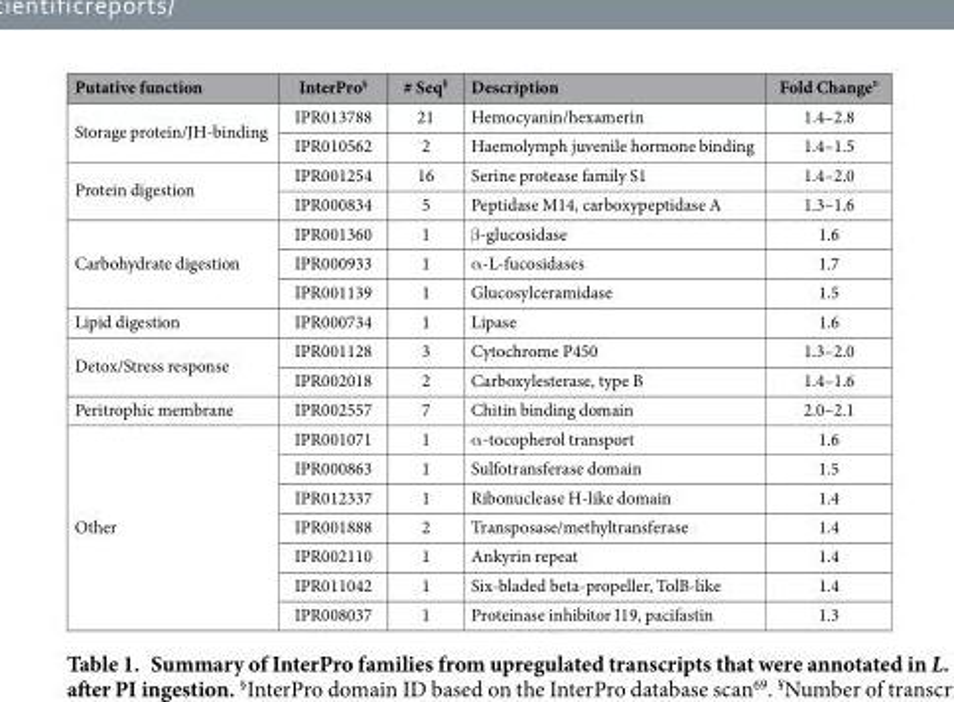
<table><thead><tr><td>Putative function</td><td>InterPro§</td><td># Seq¥</td><td>Description</td><td>Fold Change¤</td></tr></thead><tbody><tr><td rowspan="2">Storage protein/JH-binding</td><td>IPR013788</td><td>21</td><td>Hemocyanin/hexamerin</td><td>1.4–2.8</td></tr><tr><td>IPR010562</td><td>2</td><td>Haemolymph juvenile hormone binding</td><td>1.4–1.5</td></tr><tr><td rowspan="2">Protein digestion</td><td>IPR001254</td><td>16</td><td>Serine protease family S1</td><td>1.4–2.0</td></tr><tr><td>IPR000834</td><td>5</td><td>Peptidase M14, carboxypeptidase A</td><td>1.3–1.6</td></tr><tr><td rowspan="3">Carbohydrate digestion</td><td>IPR001360</td><td>1</td><td>β -glucosidase</td><td>1.6</td></tr><tr><td>IPR000933</td><td>1</td><td>α -L-fucosidases</td><td>1.7</td></tr><tr><td>IPR001139</td><td>1</td><td>Glucosylceramidase</td><td>1.5</td></tr><tr><td>Lipid digestion</td><td>IPR000734</td><td>1</td><td>Lipase</td><td>1.6</td></tr><tr><td rowspan="2">Detox/Stress response</td><td>IPR001128</td><td>3</td><td>Cytochrome P450</td><td>1.3–2.0</td></tr><tr><td>IPR002018</td><td>2</td><td>Carboxylesterase, type B</td><td>1.4–1.6</td></tr><tr><td>Peritrophic membrane</td><td>IPR002557</td><td>7</td><td>Chitin binding domain</td><td>2.0–2.1</td></tr><tr><td rowspan="7">Other</td><td>IPR001071</td><td>1</td><td>α -tocopherol transport</td><td>1.6</td></tr><tr><td>IPR000863</td><td>1</td><td>Sulfotransferase domain</td><td>1.5</td></tr><tr><td>IPR012337</td><td>1</td><td>Ribonuclease H-like domain</td><td>1.4</td></tr><tr><td>IPR001888</td><td>2</td><td>Transposase/methyltransferase</td><td>1.4</td></tr><tr><td>IPR002110</td><td>1</td><td>Ankyrin repeat</td><td>1.4</td></tr><tr><td>IPR011042</td><td>1</td><td>Six-bladed beta-propeller, TolB-like</td><td>1.4</td></tr><tr><td>IPR008037</td><td>1</td><td>Proteinase inhibitor I19, pacifastin</td><td>1.3</td></tr></tbody></table>